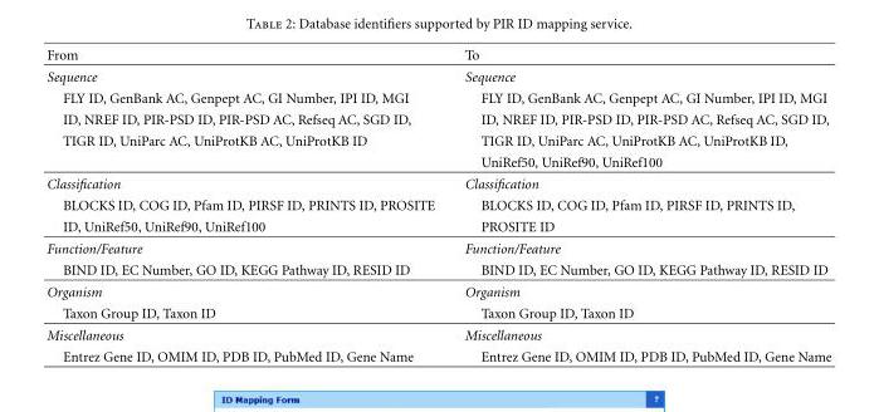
<table><thead><tr><td>From</td><td>To</td></tr></thead><tbody><tr><td>Sequence</td><td>Sequence</td></tr><tr><td>FLY ID, GenBank AC, Genpept AC, GI Number, IPI ID, MGI</td><td>FLY ID, GenBank AC, Genpept AC, GI Number, IPI ID, MGI</td></tr><tr><td>ID, NREF ID, PIR-PSD ID, PIR-PSD AC, Refseq AC, SGD ID,</td><td>ID, NREF ID, PIR-PSD ID, PIR-PSD AC, Refseq AC, SGD ID,</td></tr><tr><td rowspan="2">TIGR ID, UniParc AC, UniProtKB AC, UniProtKB ID</td><td>TIGR ID, UniParc AC, UniProtKB AC, UniProtKB ID,</td></tr><tr><td>UniRef50, UniRef90, UniRef100</td></tr><tr><td>Classification</td><td>Classification</td></tr><tr><td>BLOCKS ID, COG ID, Pfam ID, PIRSF ID, PRINTS ID, PROSITE</td><td>BLOCKS ID, COG ID, Pfam ID, PIRSF ID, PRINTS ID,</td></tr><tr><td>ID, UniRef50, UniRef90, UniRef100</td><td>PROSITE ID</td></tr><tr><td>Function/Feature</td><td>Function/Feature</td></tr><tr><td>BIND ID, EC Number, GO ID, KEGG Pathway ID, RESID ID</td><td>BIND ID, EC Number, GO ID, KEGG Pathway ID, RESID ID</td></tr><tr><td>Organism</td><td>Organism</td></tr><tr><td>Taxon Group ID, Taxon ID</td><td>Taxon Group ID, Taxon ID</td></tr><tr><td>Miscellaneous</td><td>Miscellaneous</td></tr><tr><td>Entrez Gene ID, OMIM ID, PDB ID, PubMed ID, Gene Name</td><td>Entrez Gene ID, OMIM ID, PDB ID, PubMed ID, Gene Name</td></tr></tbody></table>